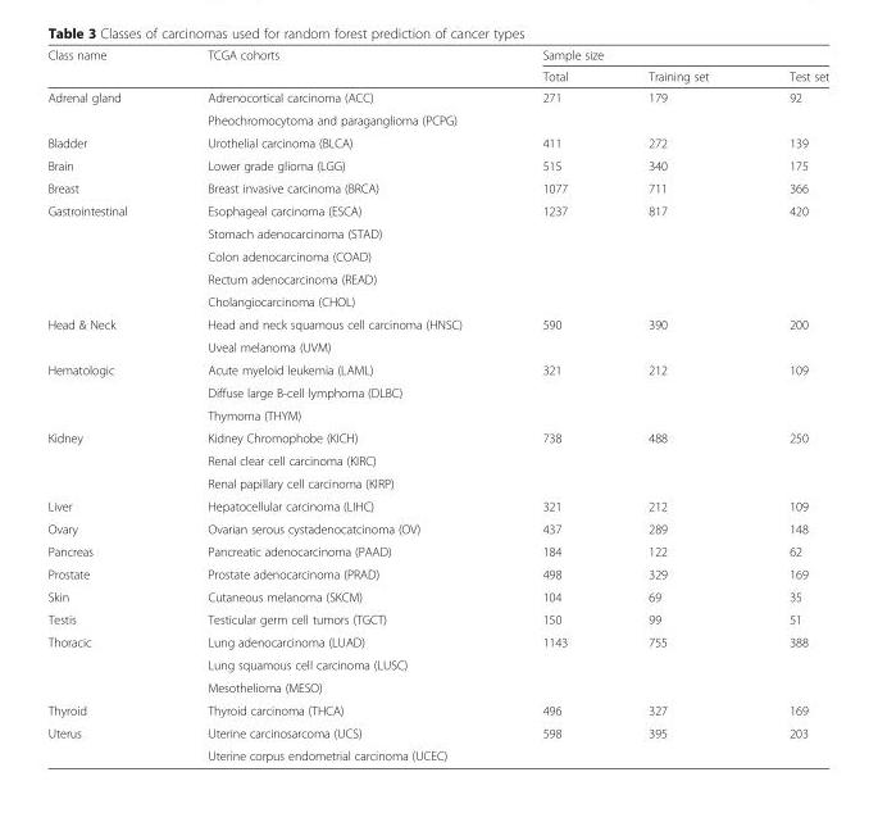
<table><thead><tr><td rowspan="2">Class name</td><td rowspan="2">TCGA cohorts</td><td colspan="3">Sample size</td></tr><tr><td>Total</td><td>Training set</td><td>Test set</td></tr></thead><tbody><tr><td rowspan="2">Adrenal gland</td><td>Adrenocortical carcinoma (ACC)</td><td rowspan="2">271</td><td rowspan="2">179</td><td rowspan="2">92</td></tr><tr><td>Pheochromocytoma and paraganglioma (PCPG)</td></tr><tr><td>Bladder</td><td>Urothelial carcinoma (BLCA)</td><td>411</td><td>272</td><td>139</td></tr><tr><td>Brain</td><td>Lower grade glioma (LGG)</td><td>515</td><td>340</td><td>175</td></tr><tr><td>Breast</td><td>Breast invasive carcinoma (BRCA)</td><td>1077</td><td>711</td><td>366</td></tr><tr><td rowspan="5">Gastrointestinal</td><td>Esophageal carcinoma (ESCA)</td><td rowspan="5">1237</td><td rowspan="5">817</td><td rowspan="5">420</td></tr><tr><td>Stomach adenocarcinoma (STAD)</td></tr><tr><td>Colon adenocarcinoma (COAD)</td></tr><tr><td>Rectum adenocarcinoma (READ)</td></tr><tr><td>Cholangiocarcinoma (CHOL)</td></tr><tr><td rowspan="2">Head &amp; Neck</td><td>Head and neck squamous cell carcinoma (HNSC)</td><td rowspan="2">590</td><td rowspan="2">390</td><td rowspan="2">200</td></tr><tr><td>Uveal melanoma (UVM)</td></tr><tr><td rowspan="3">Hematologic</td><td>Acute myeloid leukemia (LAML)</td><td rowspan="3">321</td><td rowspan="3">212</td><td rowspan="3">109</td></tr><tr><td>Diffuse large B-cell lymphoma (DLBC)</td></tr><tr><td>Thymoma (THYM)</td></tr><tr><td rowspan="3">Kidney</td><td>Kidney Chromophobe (KICH)</td><td rowspan="3">738</td><td rowspan="3">488</td><td rowspan="3">250</td></tr><tr><td>Renal clear cell carcinoma (KIRC)</td></tr><tr><td>Renal papillary cell carcinoma (KIRP)</td></tr><tr><td>Liver</td><td>Hepatocellular carcinoma (LIHC)</td><td>321</td><td>212</td><td>109</td></tr><tr><td>Ovary</td><td>Ovarian serous cystadenocatcinoma (OV)</td><td>437</td><td>289</td><td>148</td></tr><tr><td>Pancreas</td><td>Pancreatic adenocarcinoma (PAAD)</td><td>184</td><td>122</td><td>62</td></tr><tr><td>Prostate</td><td>Prostate adenocarcinoma (PRAD)</td><td>498</td><td>329</td><td>169</td></tr><tr><td>Skin</td><td>Cutaneous melanoma (SKCM)</td><td>104</td><td>69</td><td>35</td></tr><tr><td>Testis</td><td>Testicular germ cell tumors (TGCT)</td><td>150</td><td>99</td><td>51</td></tr><tr><td rowspan="3">Thoracic</td><td>Lung adenocarcinoma (LUAD)</td><td rowspan="3">1143</td><td rowspan="3">755</td><td rowspan="3">388</td></tr><tr><td>Lung squamous cell carcinoma (LUSC)</td></tr><tr><td>Mesothelioma (MESO)</td></tr><tr><td>Thyroid</td><td>Thyroid carcinoma (THCA)</td><td>496</td><td>327</td><td>169</td></tr><tr><td rowspan="2">Uterus</td><td>Uterine carcinosarcoma (UCS)</td><td rowspan="2">598</td><td rowspan="2">395</td><td rowspan="2">203</td></tr><tr><td>Uterine corpus endometrial carcinoma (UCEC)</td></tr></tbody></table>